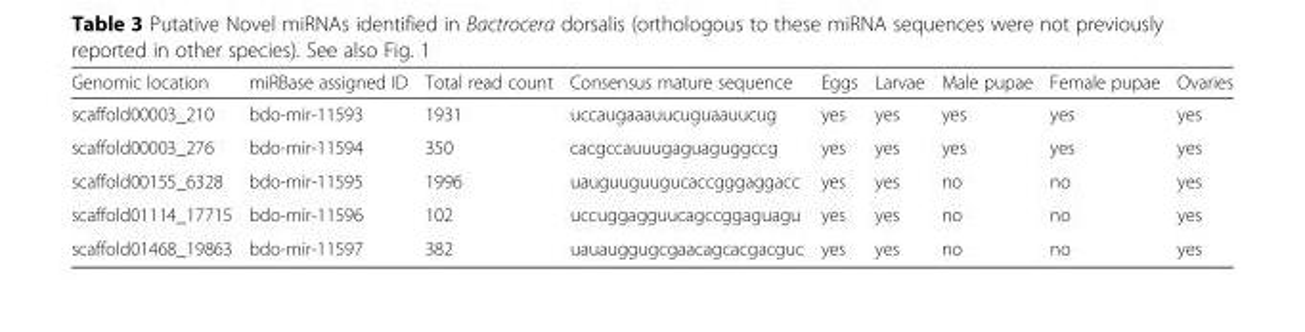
<table><thead><tr><td>Genomic location</td><td>miRBase assigned ID</td><td>Total read count</td><td>Consensus mature sequence</td><td>Eggs</td><td>Larvae</td><td>Male pupae</td><td>Female pupae</td><td>Ovaries</td></tr></thead><tbody><tr><td>scaffold00003_210</td><td>bdo-mir-11593</td><td>1931</td><td>uccaugaaauucuguaauucug</td><td>yes</td><td>yes</td><td>yes</td><td>yes</td><td>yes</td></tr><tr><td>scaffold00003_276</td><td>bdo-mir-11594</td><td>350</td><td>cacgccauuugaguaguggccg</td><td>yes</td><td>yes</td><td>yes</td><td>yes</td><td>yes</td></tr><tr><td>scaffold00155_6328</td><td>bdo-mir-11595</td><td>1996</td><td>uauguuguugucaccgggaggacc</td><td>yes</td><td>yes</td><td>no</td><td>no</td><td>yes</td></tr><tr><td>scaffold01114_17715</td><td>bdo-mir-11596</td><td>102</td><td>uccuggagguucagccggaguagu</td><td>yes</td><td>yes</td><td>no</td><td>no</td><td>yes</td></tr><tr><td>scaffold01468_19863</td><td>bdo-mir-11597</td><td>382</td><td>uauauggugcgaacagcacgacguc</td><td>yes</td><td>yes</td><td>no</td><td>no</td><td>yes</td></tr></tbody></table>